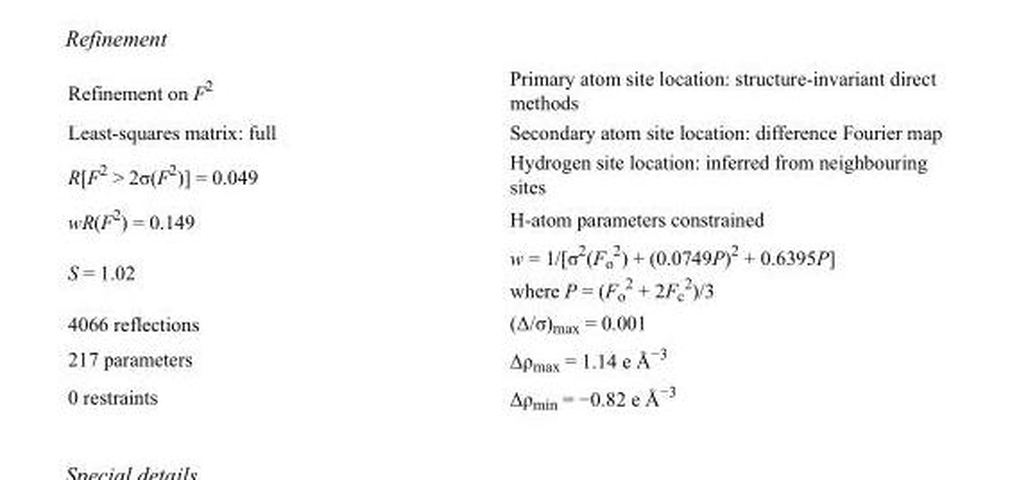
<table><tbody><tr><td>Refinement on F<sup>2</sup></td><td>Primary atom site location: structure-invariant direct methods</td></tr><tr><td>Least-squares matrix: full</td><td>Secondary atom site location: difference Fourier map</td></tr><tr><td>R[F<sup>2</sup> &gt; 2σ(F<sup>2</sup>)] = 0.049</td><td>Hydrogen site location: inferred from neighbouring sites</td></tr><tr><td>wR(F<sup>2</sup>) = 0.149</td><td>H-atom parameters constrained</td></tr><tr><td>S = 1.02</td><td>w = 1/[σ<sup>2</sup>(F<sub>o</sub> <sup>2</sup>) + (0.0749P)<sup>2</sup> + 0.6395P] where P = (F<sub>o</sub> <sup>2</sup> + 2F<sub>c</sub> <sup>2</sup>)/3</td></tr><tr><td>4066 reflections</td><td>(Δ/σ)<sub>max</sub> = 0.001</td></tr><tr><td>217 parameters</td><td>Δρ<sub>max</sub> = 1.14 e Å<sup>−3</sup></td></tr><tr><td>0 restraints</td><td>Δρ<sub>min</sub> = −0.82 e Å<sup>−3</sup></td></tr></tbody></table>